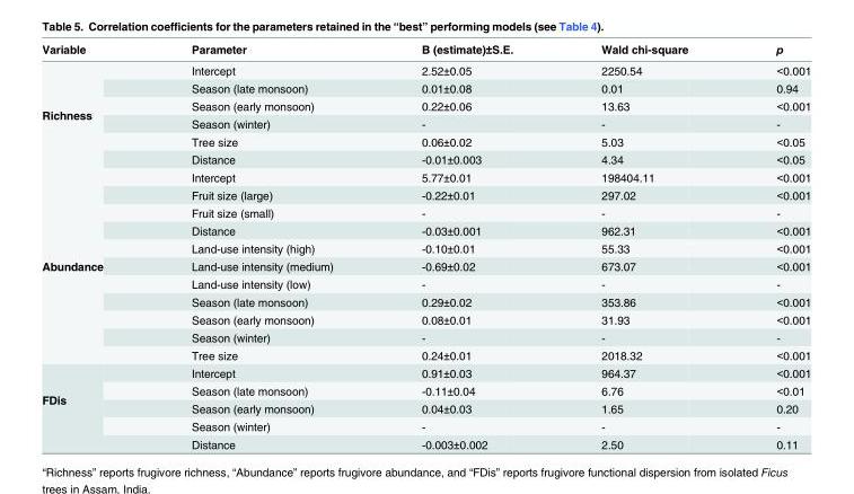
<table><thead><tr><td>Variable</td><td>Parameter</td><td>B (estimate)±S.E.</td><td>Wald chi-square</td><td>p</td></tr></thead><tbody><tr><td rowspan="6">Richness</td><td>Intercept</td><td>2.52±0.05</td><td>2250.54</td><td>&lt;0.001</td></tr><tr><td>Season (late monsoon)</td><td>0.01±0.08</td><td>0.01</td><td>0.94</td></tr><tr><td>Season (early monsoon)</td><td>0.22±0.06</td><td>13.63</td><td>&lt;0.001</td></tr><tr><td>Season (winter)</td><td>-</td><td>-</td><td>-</td></tr><tr><td>Tree size</td><td>0.06±0.02</td><td>5.03</td><td>&lt;0.05</td></tr><tr><td>Distance</td><td>-0.01±0.003</td><td>4.34</td><td>&lt;0.05</td></tr><tr><td rowspan="11">Abundance</td><td>Intercept</td><td>5.77±0.01</td><td>198404.11</td><td>&lt;0.001</td></tr><tr><td>Fruit size (large)</td><td>-0.22±0.01</td><td>297.02</td><td>&lt;0.001</td></tr><tr><td>Fruit size (small)</td><td>-</td><td>-</td><td>-</td></tr><tr><td>Distance</td><td>-0.03±0.001</td><td>962.31</td><td>&lt;0.001</td></tr><tr><td>Land-use intensity (high)</td><td>-0.10±0.01</td><td>55.33</td><td>&lt;0.001</td></tr><tr><td>Land-use intensity (medium)</td><td>-0.69±0.02</td><td>673.07</td><td>&lt;0.001</td></tr><tr><td>Land-use intensity (low)</td><td>-</td><td>-</td><td>-</td></tr><tr><td>Season (late monsoon)</td><td>0.29±0.02</td><td>353.86</td><td>&lt;0.001</td></tr><tr><td>Season (early monsoon)</td><td>0.08±0.01</td><td>31.93</td><td>&lt;0.001</td></tr><tr><td>Season (winter)</td><td>-</td><td>-</td><td>-</td></tr><tr><td>Tree size</td><td>0.24±0.01</td><td>2018.32</td><td>&lt;0.001</td></tr><tr><td rowspan="5">FDis</td><td>Intercept</td><td>0.91±0.03</td><td>964.37</td><td>&lt;0.001</td></tr><tr><td>Season (late monsoon)</td><td>-0.11±0.04</td><td>6.76</td><td>&lt;0.01</td></tr><tr><td>Season (early monsoon)</td><td>0.04±0.03</td><td>1.65</td><td>0.20</td></tr><tr><td>Season (winter)</td><td>-</td><td>-</td><td>-</td></tr><tr><td>Distance</td><td>-0.003±0.002</td><td>2.50</td><td>0.11</td></tr></tbody></table>